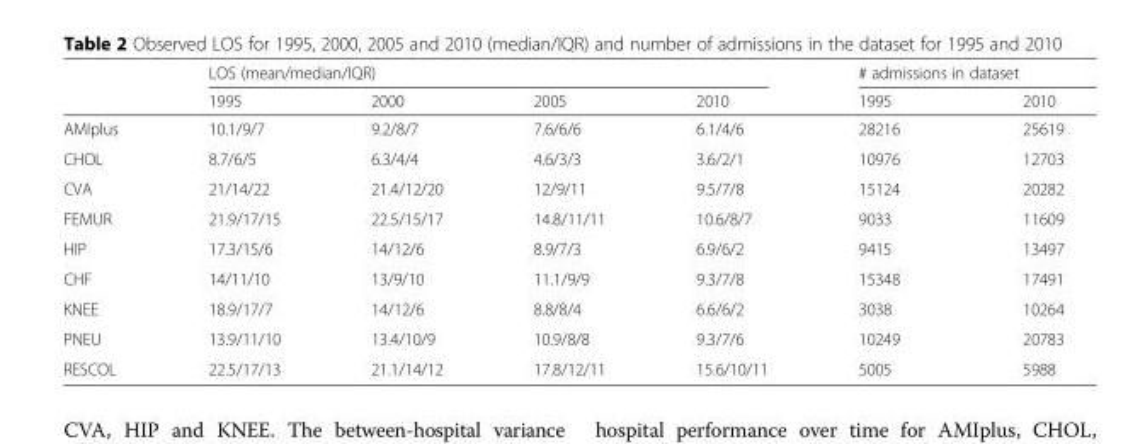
<table><thead><tr><td rowspan="2"></td><td colspan="4">LOS (mean/median/IQR)</td><td colspan="2"># admissions in dataset</td></tr><tr><td>1995</td><td>2000</td><td>2005</td><td>2010</td><td>1995</td><td>2010</td></tr></thead><tbody><tr><td>AMIplus</td><td>10.1/9/7</td><td>9.2/8/7</td><td>7.6/6/6</td><td>6.1/4/6</td><td>28216</td><td>25619</td></tr><tr><td>CHOL</td><td>8.7/6/5</td><td>6.3/4/4</td><td>4.6/3/3</td><td>3.6/2/1</td><td>10976</td><td>12703</td></tr><tr><td>CVA</td><td>21/14/22</td><td>21.4/12/20</td><td>12/9/11</td><td>9.5/7/8</td><td>15124</td><td>20282</td></tr><tr><td>FEMUR</td><td>21.9/17/15</td><td>22.5/15/17</td><td>14.8/11/11</td><td>10.6/8/7</td><td>9033</td><td>11609</td></tr><tr><td>HIP</td><td>17.3/15/6</td><td>14/12/6</td><td>8.9/7/3</td><td>6.9/6/2</td><td>9415</td><td>13497</td></tr><tr><td>CHF</td><td>14/11/10</td><td>13/9/10</td><td>11.1/9/9</td><td>9.3/7/8</td><td>15348</td><td>17491</td></tr><tr><td>KNEE</td><td>18.9/17/7</td><td>14/12/6</td><td>8.8/8/4</td><td>6.6/6/2</td><td>3038</td><td>10264</td></tr><tr><td>PNEU</td><td>13.9/11/10</td><td>13.4/10/9</td><td>10.9/8/8</td><td>9.3/7/6</td><td>10249</td><td>20783</td></tr><tr><td>RESCOL</td><td>22.5/17/13</td><td>21.1/14/12</td><td>17.8/12/11</td><td>15.6/10/11</td><td>5005</td><td>5988</td></tr></tbody></table>